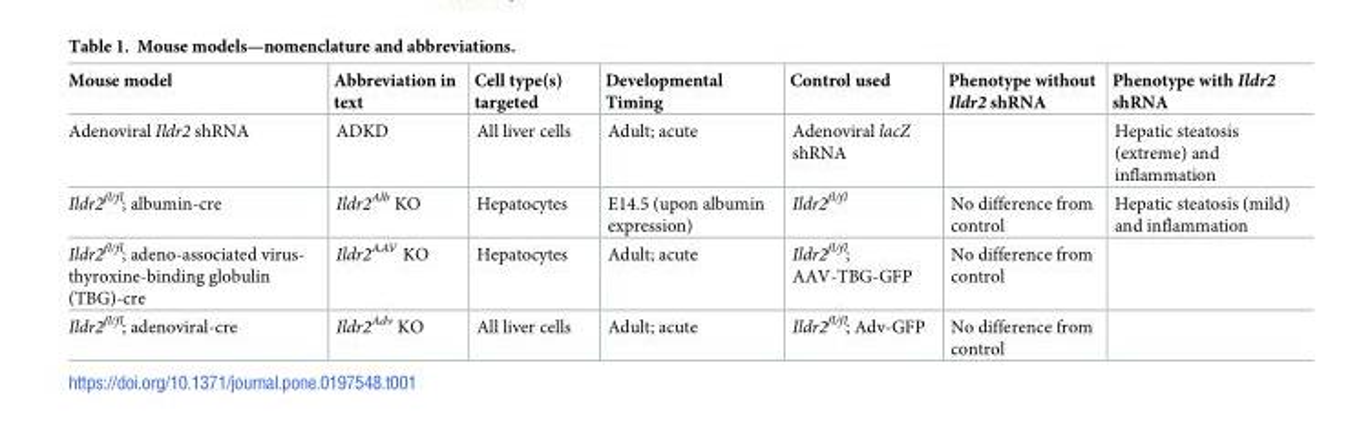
<table><thead><tr><td>Mouse model</td><td>Abbreviation in text</td><td>Cell type(s) targeted</td><td>Developmental Timing</td><td>Control used</td><td>Phenotype without Ildr2 shRNA</td><td>Phenotype with Ildr2 shRNA</td></tr></thead><tbody><tr><td>Adenoviral Ildr2 shRNA</td><td>ADKD</td><td>All liver cells</td><td>Adult; acute</td><td>Adenoviral lacZ shRNA</td><td></td><td>Hepatic steatosis (extreme) and inflammation</td></tr><tr><td>Ildr2<sup>fl/fl</sup>; albumin-cre</td><td>Ildr2<sup>Alb</sup> KO</td><td>Hepatocytes</td><td>E14.5 (upon albumin expression)</td><td>Ildr2<sup>fl/fl</sup></td><td>No difference from control</td><td>Hepatic steatosis (mild) and inflammation</td></tr><tr><td>Ildr2<sup>fl/fl</sup>; adeno-associated virus- thyroxine-binding globulin (TBG)-cre</td><td>Ildr2<sup>AAV</sup> KO</td><td>Hepatocytes</td><td>Adult; acute</td><td>Ildr2<sup>fl/fl</sup>; AAV-TBG-GFP</td><td>No difference from control</td><td></td></tr><tr><td>Ildr2<sup>fl/fl</sup>; adenoviral-cre</td><td>Ildr2<sup>Adv</sup> KO</td><td>All liver cells</td><td>Adult; acute</td><td>Ildr2<sup>fl/fl</sup>; Adv-GFP</td><td>No difference from control</td><td></td></tr></tbody></table>